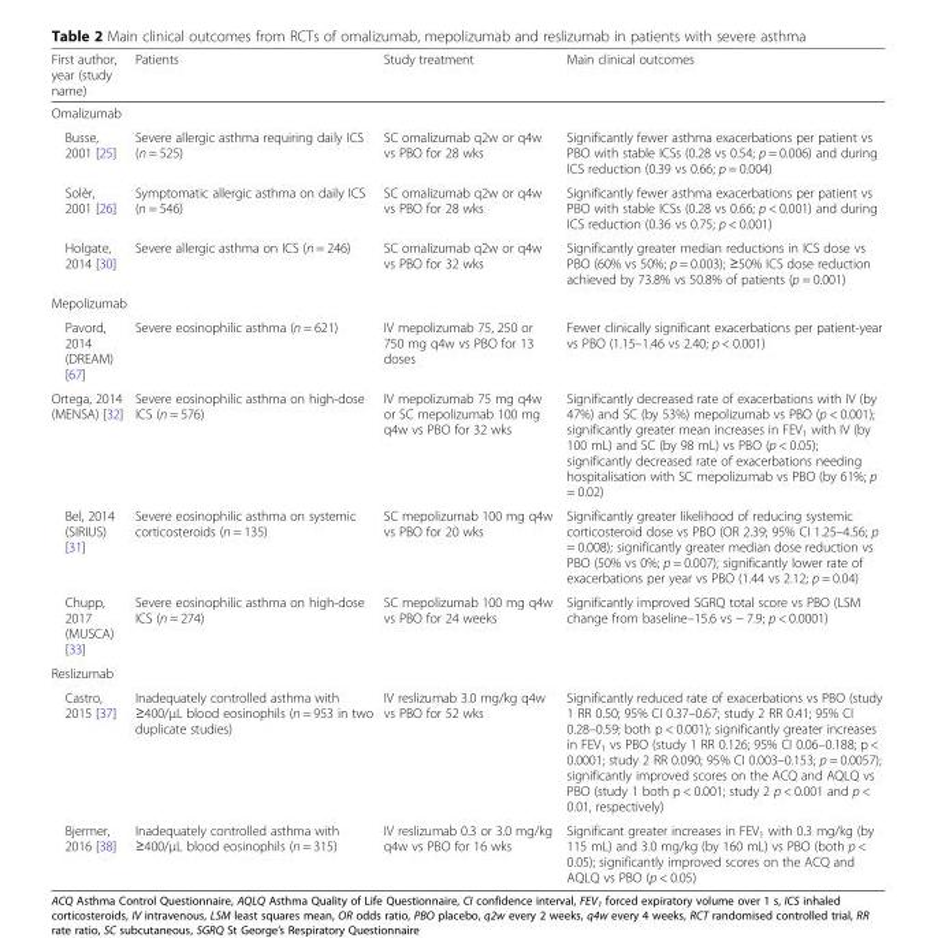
<table><thead><tr><td>First author, year (study name)</td><td>Patients</td><td>Study treatment</td><td>Main clinical outcomes</td></tr></thead><tbody><tr><td colspan="4">Omalizumab</td></tr><tr><td>Busse, 2001 [25]</td><td>Severe allergic asthma requiring daily ICS (n = 525)</td><td>SC omalizumab q2w or q4w vs PBO for 28 wks</td><td>Significantly fewer asthma exacerbations per patient vs PBO with stable ICSs (0.28 vs 0.54; p = 0.006) and during ICS reduction (0.39 vs 0.66; p = 0.004)</td></tr><tr><td>Solèr, 2001 [26]</td><td>Symptomatic allergic asthma on daily ICS (n = 546)</td><td>SC omalizumab q2w or q4w vs PBO for 28 wks</td><td>Significantly fewer asthma exacerbations per patient vs PBO with stable ICSs (0.28 vs 0.66; p &lt; 0.001) and during ICS reduction (0.36 vs 0.75; p &lt; 0.001)</td></tr><tr><td>Holgate, 2014 [30]</td><td>Severe allergic asthma on ICS (n = 246)</td><td>SC omalizumab q2w or q4w vs PBO for 32 wks</td><td>Significantly greater median reductions in ICS dose vs PBO (60% vs 50%; p = 0.003); ≥50% ICS dose reduction achieved by 73.8% vs 50.8% of patients (p = 0.001)</td></tr><tr><td colspan="4">Mepolizumab</td></tr><tr><td>Pavord, 2014 (DREAM) [67]</td><td>Severe eosinophilic asthma (n = 621)</td><td>IV mepolizumab 75, 250 or 750 mg q4w vs PBO for 13 doses</td><td>Fewer clinically significant exacerbations per patient-year vs PBO (1.15–1.46 vs 2.40; p &lt; 0.001)</td></tr><tr><td>Ortega, 2014 (MENSA) [32]</td><td>Severe eosinophilic asthma on high-dose ICS (n = 576)</td><td>IV mepolizumab 75 mg q4w or SC mepolizumab 100 mg q4w vs PBO for 32 wks</td><td>Significantly decreased rate of exacerbations with IV (by 47%) and SC (by 53%) mepolizumab vs PBO (p &lt; 0.001); significantly greater mean increases in FEV<sub>1</sub> with IV (by 100 mL) and SC (by 98 mL) vs PBO (p &lt; 0.05); significantly decreased rate of exacerbations needing hospitalisation with SC mepolizumab vs PBO (by 61%; p = 0.02)</td></tr><tr><td>Bel, 2014 (SIRIUS) [31]</td><td>Severe eosinophilic asthma on systemic corticosteroids (n = 135)</td><td>SC mepolizumab 100 mg q4w vs PBO for 20 wks</td><td>Significantly greater likelihood of reducing systemic corticosteroid dose vs PBO (OR 2.39; 95% CI 1.25–4.56; p = 0.008); significantly greater median dose reduction vs PBO (50% vs 0%; p = 0.007); significantly lower rate of exacerbations per year vs PBO (1.44 vs 2.12; p = 0.04)</td></tr><tr><td>Chupp, 2017 (MUSCA) [33]</td><td>Severe eosinophilic asthma on high-dose ICS (n = 274)</td><td>SC mepolizumab 100 mg q4w vs PBO for 24 weeks</td><td>Significantly improved SGRQ total score vs PBO (LSM change from baseline–15.6 vs − 7.9; p &lt; 0.0001)</td></tr><tr><td colspan="4">Reslizumab</td></tr><tr><td>Castro, 2015 [37]</td><td>Inadequately controlled asthma with ≥400/μL blood eosinophils (n = 953 in two duplicate studies)</td><td>IV reslizumab 3.0 mg/kg q4w vs PBO for 52 wks</td><td>Significantly reduced rate of exacerbations vs PBO (study 1 RR 0.50; 95% CI 0.37–0.67; study 2 RR 0.41; 95% CI 0.28–0.59; both p &lt; 0.001); significantly greater increases in FEV<sub>1</sub> vs PBO (study 1 RR 0.126; 95% CI 0.06–0.188; p &lt; 0.0001; study 2 RR 0.090; 95% CI 0.003–0.153; p = 0.0057); significantly improved scores on the ACQ and AQLQ vs PBO (study 1 both p &lt; 0.001; study 2 p &lt; 0.001 and p &lt; 0.01, respectively)</td></tr><tr><td>Bjermer, 2016 [38]</td><td>Inadequately controlled asthma with ≥400/μL blood eosinophils (n = 315)</td><td>IV reslizumab 0.3 or 3.0 mg/kg q4w vs PBO for 16 wks</td><td>Significant greater increases in FEV<sub>1</sub> with 0.3 mg/kg (by 115 mL) and 3.0 mg/kg (by 160 mL) vs PBO (both p &lt; 0.05); significantly improved scores on the ACQ and AQLQ vs PBO (p &lt; 0.05)</td></tr></tbody></table>